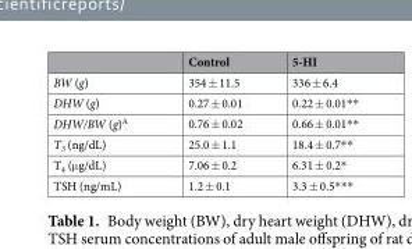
<table><thead><tr><td></td><td>Control</td><td>5-HI</td></tr></thead><tbody><tr><td>BW (g)</td><td>354 ± 11.5</td><td>336 ± 6.4</td></tr><tr><td>DHW (g)</td><td>0.27 ± 0.01</td><td>0.22 ± 0.01**</td></tr><tr><td>DHW/BW (g)<sup>A</sup></td><td>0.76 ± 0.02</td><td>0.66 ± 0.01**</td></tr><tr><td>T<sub>3</sub> (ng/dL)</td><td>25.0 ± 1.1</td><td>18.4 ± 0.7**</td></tr><tr><td>T<sub>4</sub> (μg/dL)</td><td>7.06 ± 0.2</td><td>6.31 ± 0.2*</td></tr><tr><td>TSH (ng/mL)</td><td>1.2 ± 0.1</td><td>3.3 ± 0.5***</td></tr></tbody></table>